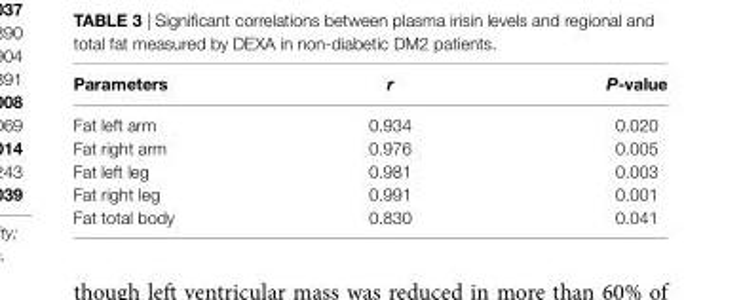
<table><thead><tr><td>Parameters</td><td>r</td><td>P-value</td></tr></thead><tbody><tr><td>Fat left arm</td><td>0.934</td><td>0.020</td></tr><tr><td>Fat right arm</td><td>0.976</td><td>0.005</td></tr><tr><td>Fat left leg</td><td>0.981</td><td>0.003</td></tr><tr><td>Fat right leg</td><td>0.991</td><td>0.001</td></tr><tr><td>Fat total body</td><td>0.830</td><td>0.041</td></tr></tbody></table>